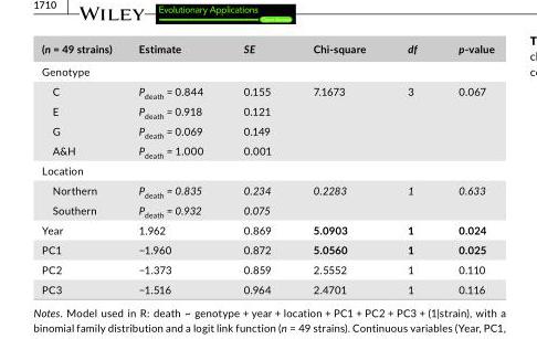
<table><thead><tr><td>(n = 49 strains)</td><td>Estimate</td><td>SE</td><td>Chi- square</td><td>df</td><td>p- value</td></tr></thead><tbody><tr><td colspan="6">Genotype</td></tr><tr><td>C</td><td>P<sub>death</sub> = 0.844</td><td>0.155</td><td rowspan="4">7.1673</td><td rowspan="4">3</td><td rowspan="4">0.067</td></tr><tr><td>E</td><td>P<sub>death</sub> = 0.918</td><td>0.121</td></tr><tr><td>G</td><td>P<sub>death</sub> = 0.069</td><td>0.149</td></tr><tr><td>A&amp;H</td><td>P<sub>death</sub> = 1.000</td><td>0.001</td></tr><tr><td colspan="6">Location</td></tr><tr><td>Northern</td><td>P<sub>death</sub> = 0.835</td><td>0.234</td><td rowspan="2">0.2283</td><td rowspan="2">1</td><td rowspan="2">0.633</td></tr><tr><td>Southern</td><td>P<sub>death</sub> = 0.932</td><td>0.075</td></tr><tr><td>Year</td><td>1.962</td><td>0.869</td><td>5.0903</td><td>1</td><td>0.024</td></tr><tr><td>PC1</td><td>−1.960</td><td>0.872</td><td>5.0560</td><td>1</td><td>0.025</td></tr><tr><td>PC2</td><td>−1.373</td><td>0.859</td><td>2.5552</td><td>1</td><td>0.110</td></tr><tr><td>PC3</td><td>−1.516</td><td>0.964</td><td>2.4701</td><td>1</td><td>0.116</td></tr></tbody></table>